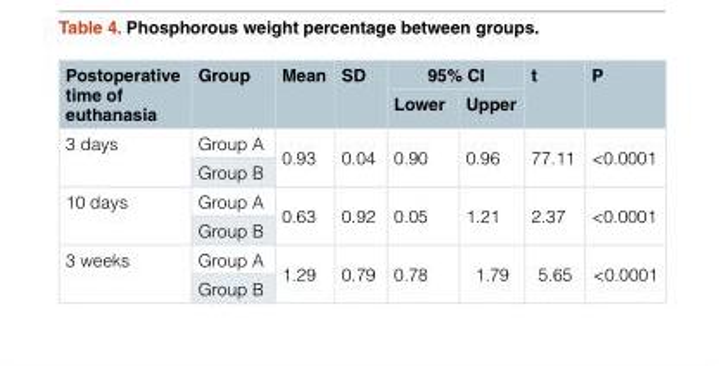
<table><thead><tr><td rowspan="2">Postoperative time of euthanasia</td><td rowspan="2">Group</td><td rowspan="2">Mean</td><td rowspan="2">SD</td><td colspan="2">95% CI</td><td rowspan="2">t</td><td rowspan="2">P</td></tr><tr><td>Lower</td><td>Upper</td></tr></thead><tbody><tr><td rowspan="2">3 days</td><td>Group A</td><td rowspan="2">0.93</td><td rowspan="2">0.04</td><td rowspan="2">0.90</td><td rowspan="2">0.96</td><td rowspan="2">77.11</td><td rowspan="2">&lt;0.0001</td></tr><tr><td>Group B</td></tr><tr><td rowspan="2">10 days</td><td>Group A</td><td rowspan="2">0.63</td><td rowspan="2">0.92</td><td rowspan="2">0.05</td><td rowspan="2">1.21</td><td rowspan="2">2.37</td><td rowspan="2">&lt;0.0001</td></tr><tr><td>Group B</td></tr><tr><td rowspan="2">3 weeks</td><td>Group A</td><td rowspan="2">1.29</td><td rowspan="2">0.79</td><td rowspan="2">0.78</td><td rowspan="2">1.79</td><td rowspan="2">5.65</td><td rowspan="2">&lt;0.0001</td></tr><tr><td>Group B</td></tr></tbody></table>